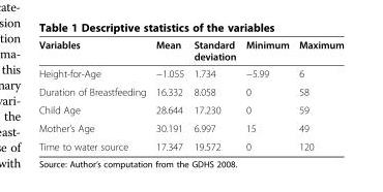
<table><thead><tr><td>Variables</td><td>Mean</td><td>Standard deviation</td><td>Minimum</td><td>Maximum</td></tr></thead><tbody><tr><td>Height-for-Age</td><td>−1.055</td><td>1.734</td><td>−5.99</td><td>6</td></tr><tr><td>Duration of Breastfeeding</td><td>16.332</td><td>8.058</td><td>0</td><td>58</td></tr><tr><td>Child Age</td><td>28.644</td><td>17.230</td><td>0</td><td>59</td></tr><tr><td>Mother’s Age</td><td>30.191</td><td>6.997</td><td>15</td><td>49</td></tr><tr><td>Time to water source</td><td>17.347</td><td>19.572</td><td>0</td><td>120</td></tr></tbody></table>